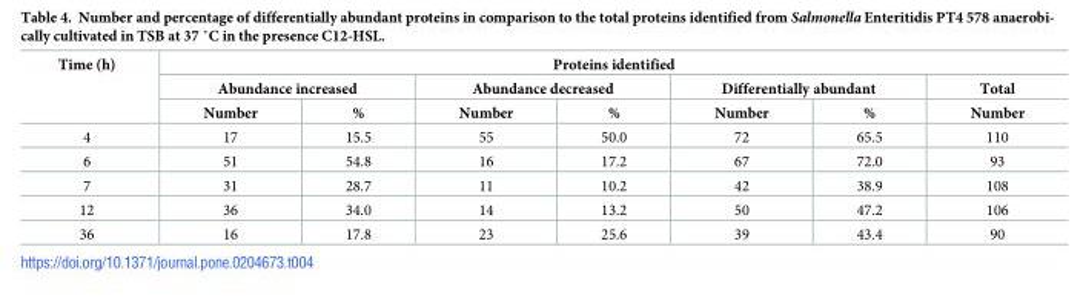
<table><thead><tr><td rowspan="3">Time (h)</td><td colspan="7">Proteins identified</td></tr><tr><td colspan="2">Abundance increased</td><td colspan="2">Abundance decreased</td><td colspan="2">Differentially abundant</td><td rowspan="2">Total Number</td></tr><tr><td>Number</td><td>%</td><td>Number</td><td>%</td><td>Number</td><td>%</td></tr></thead><tbody><tr><td>4</td><td>17</td><td>15.5</td><td>55</td><td>50.0</td><td>72</td><td>65.5</td><td>110</td></tr><tr><td>6</td><td>51</td><td>54.8</td><td>16</td><td>17.2</td><td>67</td><td>72.0</td><td>93</td></tr><tr><td>7</td><td>31</td><td>28.7</td><td>11</td><td>10.2</td><td>42</td><td>38.9</td><td>108</td></tr><tr><td>12</td><td>36</td><td>34.0</td><td>14</td><td>13.2</td><td>50</td><td>47.2</td><td>106</td></tr><tr><td>36</td><td>16</td><td>17.8</td><td>23</td><td>25.6</td><td>39</td><td>43.4</td><td>90</td></tr></tbody></table>